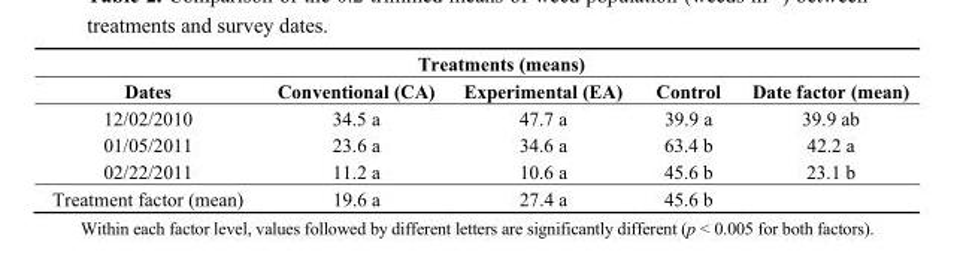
<table><thead><tr><td colspan="5">Treatments (means)</td></tr><tr><td>Dates</td><td>Conventional (CA)</td><td>Experimental (EA)</td><td>Control</td><td>Date factor (mean)</td></tr></thead><tbody><tr><td>12/02/2010</td><td>34.5 a</td><td>47.7 a</td><td>39.9 a</td><td>39.9 ab</td></tr><tr><td>01/05/2011</td><td>23.6 a</td><td>34.6 a</td><td>63.4 b</td><td>42.2 a</td></tr><tr><td>02/22/2011</td><td>11.2 a</td><td>10.6 a</td><td>45.6 b</td><td>23.1 b</td></tr><tr><td>Treatment factor (mean)</td><td>19.6 a</td><td>27.4 a</td><td>45.6 b</td><td></td></tr></tbody></table>